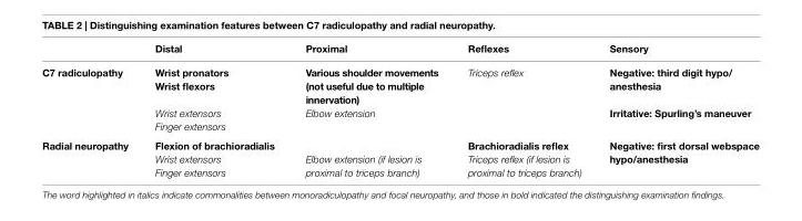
<table><thead><tr><td></td><td>distal</td><td>Proximal</td><td>reflexes</td><td>sensory</td></tr></thead><tbody><tr><td rowspan="4">C7 radiculopathy</td><td>Wrist pronators</td><td rowspan="2">Various shoulder movements (not useful due to multiple innervation)</td><td rowspan="4">Triceps reflex</td><td rowspan="2">negative: third digit hypo/ anesthesia</td></tr><tr><td>Wrist flexors</td></tr><tr><td>Wrist extensors</td><td rowspan="2">Elbow extension</td><td rowspan="2">irritative: spurling’s maneuver</td></tr><tr><td>Finger extensors</td></tr><tr><td rowspan="3">radial neuropathy</td><td>Flexion of brachioradialis</td><td></td><td>brachioradialis reflex</td><td rowspan="3">negative: first dorsal webspace hypo/anesthesia</td></tr><tr><td>Wrist extensors</td><td rowspan="2">Elbow extension (if lesion is proximal to triceps branch)</td><td rowspan="2">Triceps reflex (if lesion is proximal to triceps branch)</td></tr><tr><td>Finger extensors</td></tr></tbody></table>